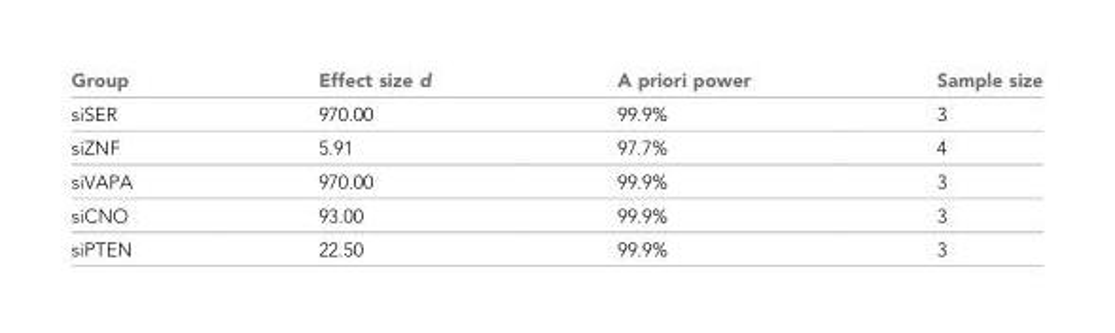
<table><thead><tr><td>Group</td><td>Effect size d</td><td>A priori power</td><td>Sample size</td></tr></thead><tbody><tr><td>siSER</td><td>970.00</td><td>99.9%</td><td>3</td></tr><tr><td>siZNF</td><td>5.91</td><td>97.7%</td><td>4</td></tr><tr><td>siVAPA</td><td>970.00</td><td>99.9%</td><td>3</td></tr><tr><td>siCNO</td><td>93.00</td><td>99.9%</td><td>3</td></tr><tr><td>siPTEN</td><td>22.50</td><td>99.9%</td><td>3</td></tr></tbody></table>